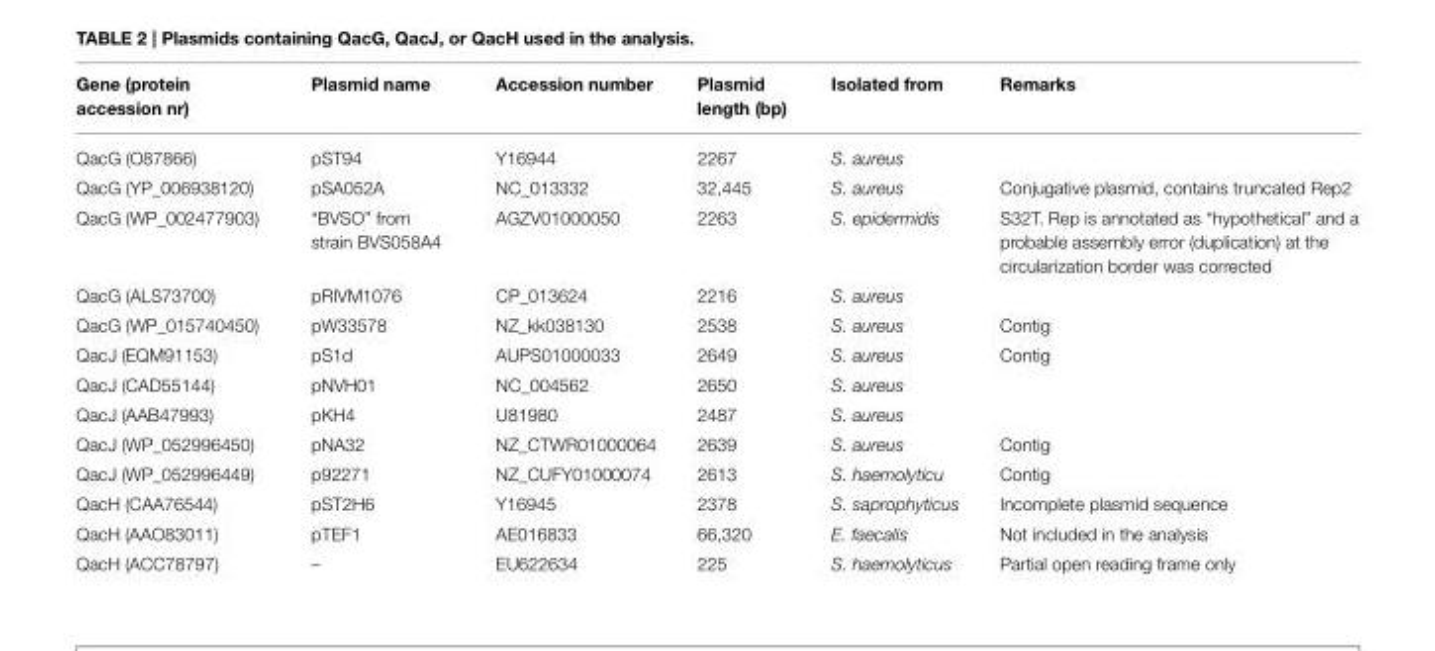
<table><thead><tr><td>Gene (protein accession nr)</td><td>Plasmid name</td><td>Accession number</td><td>Plasmid length (bp)</td><td>Isolated from</td><td>Remarks</td></tr></thead><tbody><tr><td>QacG (O87866)</td><td>pST94</td><td>Y16944</td><td>2267</td><td>S. aureus</td><td></td></tr><tr><td>QacG (YP_006938120)</td><td>pSA052A</td><td>NC_013332</td><td>32,445</td><td>S. aureus</td><td>Conjugative plasmid, contains truncated Rep2</td></tr><tr><td>QacG (WP_002477903)</td><td>“BVSO” from strain BVS058A4</td><td>AGZV01000050</td><td>2263</td><td>S. epidermidis</td><td>S32T. Rep is annotated as “hypothetical” and a probable assembly error (duplication) at the circularization border was corrected</td></tr><tr><td>QacG (ALS73700)</td><td>pRIVM1076</td><td>CP_013624</td><td>2216</td><td>S. aureus</td><td></td></tr><tr><td>QacG (WP_015740450)</td><td>pW33578</td><td>NZ_kk038130</td><td>2538</td><td>S. aureus</td><td>Contig</td></tr><tr><td>QacJ (EQM91153)</td><td>pS1d</td><td>AUPS01000033</td><td>2649</td><td>S. aureus</td><td>Contig</td></tr><tr><td>QacJ (CAD55144)</td><td>pNVH01</td><td>NC_004562</td><td>2650</td><td>S. aureus</td><td></td></tr><tr><td>QacJ (AAB47993)</td><td>pKH4</td><td>U81980</td><td>2487</td><td>S. aureus</td><td></td></tr><tr><td>QacJ (WP_052996450)</td><td>pNA32</td><td>NZ_CTWR01000064</td><td>2639</td><td>S. aureus</td><td>Contig</td></tr><tr><td>QacJ (WP_052996449)</td><td>p92271</td><td>NZ_CUFY01000074</td><td>2613</td><td>S. haemolyticu</td><td>Contig</td></tr><tr><td>QacH (CAA76544)</td><td>pST2H6</td><td>Y16945</td><td>2378</td><td>S. saprophyticus</td><td>Incomplete plasmid sequence</td></tr><tr><td>QacH (AAO83011)</td><td>pTEF1</td><td>AE016833</td><td>66,320</td><td>E. faecalis</td><td>Not included in the analysis</td></tr><tr><td>QacH (ACC78797)</td><td>–</td><td>EU622634</td><td>225</td><td>S. haemolyticus</td><td>Partial open reading frame only</td></tr></tbody></table>